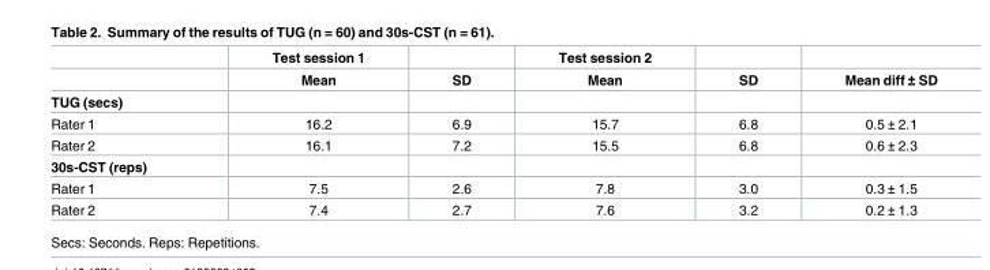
<table><thead><tr><td rowspan="2"></td><td rowspan="2">Test session 1 Mean</td><td rowspan="2">SD</td><td rowspan="2">Test session 2 Mean</td><td rowspan="2">SD</td><td rowspan="2">Mean diff ± SD</td></tr><tr></tr></thead><tbody><tr><td colspan="6">TUG (secs)</td></tr><tr><td>Rater 1</td><td>16.2</td><td>6.9</td><td>15.7</td><td>6.8</td><td>0.5 ± 2.1</td></tr><tr><td>Rater 2</td><td>16.1</td><td>7.2</td><td>15.5</td><td>6.8</td><td>0.6 ± 2.3</td></tr><tr><td colspan="6">30s-CST (reps)</td></tr><tr><td>Rater 1</td><td>7.5</td><td>2.6</td><td>7.8</td><td>3.0</td><td>0.3 ± 1.5</td></tr><tr><td>Rater 2</td><td>7.4</td><td>2.7</td><td>7.6</td><td>3.2</td><td>0.2 ± 1.3</td></tr></tbody></table>